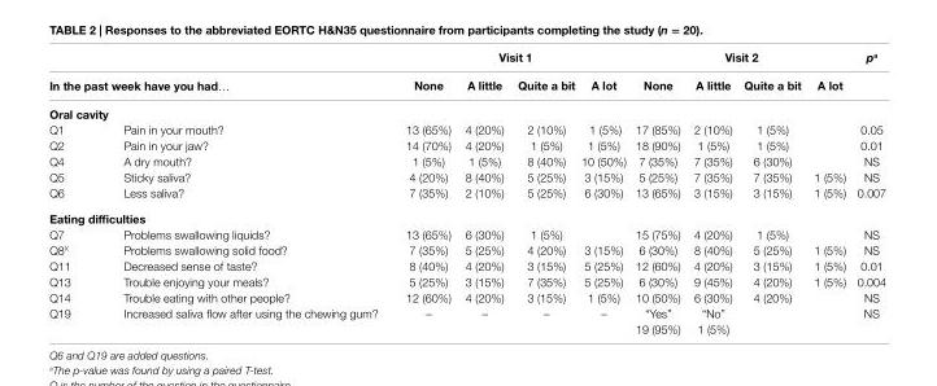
<table><thead><tr><td></td><td></td><td colspan="4">Visit 1</td><td colspan="4">Visit 2</td><td rowspan="2">p<sup>a</sup></td></tr><tr><td colspan="2">in the past week have you had…</td><td>none</td><td>a little</td><td>Quite a bit</td><td>a lot</td><td>none</td><td>a little</td><td>Quite a bit</td><td>a lot</td></tr></thead><tbody><tr><td colspan="11">Oral cavity</td></tr><tr><td>Q1</td><td>Pain in your mouth?</td><td>13 (65%)</td><td>4 (20%)</td><td>2 (10%)</td><td>1 (5%)</td><td>17 (85%)</td><td>2 (10%)</td><td>1 (5%)</td><td></td><td>0.05</td></tr><tr><td>Q2</td><td>Pain in your jaw?</td><td>14 (70%)</td><td>4 (20%)</td><td>1 (5%)</td><td>1 (5%)</td><td>18 (90%)</td><td>1 (5%)</td><td>1 (5%)</td><td></td><td>0.01</td></tr><tr><td>Q4</td><td>A dry mouth?</td><td>1 (5%)</td><td>1 (5%)</td><td>8 (40%)</td><td>10 (50%)</td><td>7 (35%)</td><td>7 (35%)</td><td>6 (30%)</td><td></td><td>NS</td></tr><tr><td>Q5</td><td>Sticky saliva?</td><td>4 (20%)</td><td>8 (40%)</td><td>5 (25%)</td><td>3 (15%)</td><td>5 (25%)</td><td>7 (35%)</td><td>7 (35%)</td><td>1 (5%)</td><td>NS</td></tr><tr><td>Q6</td><td>Less saliva?</td><td>7 (35%)</td><td>2 (10%)</td><td>5 (25%)</td><td>6 (30%)</td><td>13 (65%)</td><td>3 (15%)</td><td>3 (15%)</td><td>1 (5%)</td><td>0.007</td></tr><tr><td colspan="11">eating difficulties</td></tr><tr><td>Q7</td><td>Problems swallowing liquids?</td><td>13 (65%)</td><td>6 (30%)</td><td>1 (5%)</td><td></td><td>15 (75%)</td><td>4 (20%)</td><td>1 (5%)</td><td></td><td>NS</td></tr><tr><td>Q8<sup>X</sup></td><td>Problems swallowing solid food?</td><td>7 (35%)</td><td>5 (25%)</td><td>4 (20%)</td><td>3 (15%)</td><td>6 (30%)</td><td>8 (40%)</td><td>5 (25%)</td><td>1 (5%)</td><td>NS</td></tr><tr><td>Q11</td><td>Decreased sense of taste?</td><td>8 (40%)</td><td>4 (20%)</td><td>3 (15%)</td><td>5 (25%)</td><td>12 (60%)</td><td>4 (20%)</td><td>3 (15%)</td><td>1 (5%)</td><td>0.01</td></tr><tr><td>Q13</td><td>Trouble enjoying your meals?</td><td>5 (25%)</td><td>3 (15%)</td><td>7 (35%)</td><td>5 (25%)</td><td>6 (30%)</td><td>9 (45%)</td><td>4 (20%)</td><td>1 (5%)</td><td>0.004</td></tr><tr><td>Q14</td><td>Trouble eating with other people?</td><td>12 (60%)</td><td>4 (20%)</td><td>3 (15%)</td><td>1 (5%)</td><td>10 (50%)</td><td>6 (30%)</td><td>4 (20%)</td><td></td><td>NS</td></tr><tr><td>Q19</td><td>Increased saliva flow after using the chewing gum?</td><td>–</td><td>–</td><td>–</td><td>–</td><td>“Yes” 19 (95%)</td><td>“No” 1 (5%)</td><td></td><td></td><td>NS</td></tr></tbody></table>